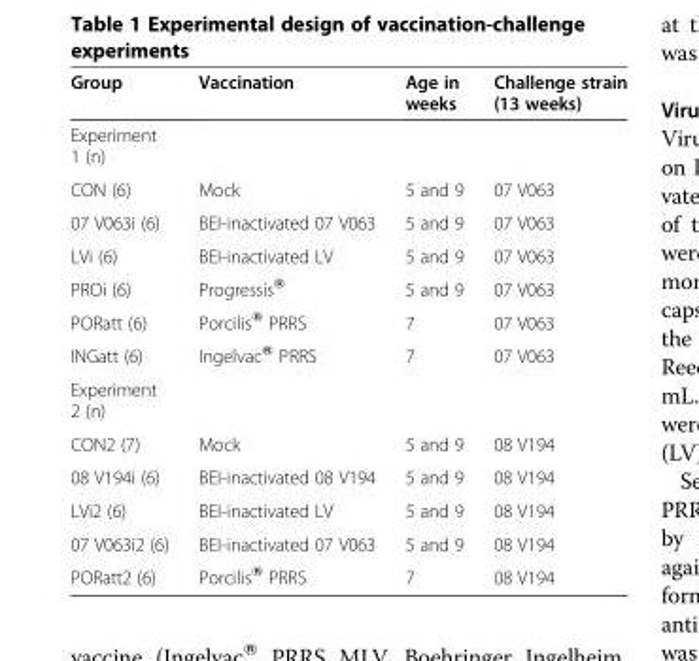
<table><thead><tr><td>Group</td><td>Vaccination</td><td>Age in weeks</td><td>Challenge strain (13 weeks)</td></tr></thead><tbody><tr><td colspan="4">Experiment 1 (n)</td></tr><tr><td>CON (6)</td><td>Mock</td><td>5 and 9</td><td>07 V063</td></tr><tr><td>07 V063i (6)</td><td>BEI-inactivated 07 V063</td><td>5 and 9</td><td>07 V063</td></tr><tr><td>LVi (6)</td><td>BEI-inactivated LV</td><td>5 and 9</td><td>07 V063</td></tr><tr><td>PROi (6)</td><td>Progressis®</td><td>5 and 9</td><td>07 V063</td></tr><tr><td>PORatt (6)</td><td>Porcilis® PRRS</td><td>7</td><td>07 V063</td></tr><tr><td>INGatt (6)</td><td>Ingelvac® PRRS</td><td>7</td><td>07 V063</td></tr><tr><td colspan="4">Experiment 2 (n)</td></tr><tr><td>CON2 (7)</td><td>Mock</td><td>5 and 9</td><td>08 V194</td></tr><tr><td>08 V194i (6)</td><td>BEI-inactivated 08 V194</td><td>5 and 9</td><td>08 V194</td></tr><tr><td>LVi2 (6)</td><td>BEI-inactivated LV</td><td>5 and 9</td><td>08 V194</td></tr><tr><td>07 V063i2 (6)</td><td>BEI-inactivated 07 V063</td><td>5 and 9</td><td>08 V194</td></tr><tr><td>PORatt2 (6)</td><td>Porcilis® PRRS</td><td>7</td><td>08 V194</td></tr></tbody></table>